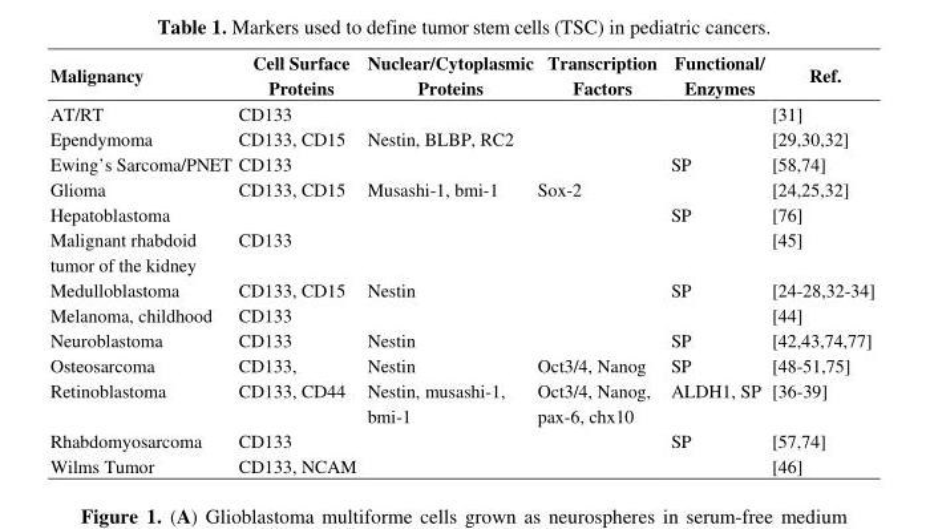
<table><thead><tr><td>Malignancy</td><td>Cell Surface Proteins</td><td>Nuclear/Cytoplasmic Proteins</td><td>Transcription Factors</td><td>Functional/ Enzymes</td><td>Ref.</td></tr></thead><tbody><tr><td>AT/RT</td><td>CD133</td><td></td><td></td><td></td><td>[31]</td></tr><tr><td>Ependymoma</td><td>CD133, CD15</td><td>Nestin, BLBP, RC2</td><td></td><td></td><td>[29,30,32]</td></tr><tr><td>Ewing’s Sarcoma/PNET</td><td>CD133</td><td></td><td></td><td>SP</td><td>[58,74]</td></tr><tr><td>Glioma</td><td>CD133, CD15</td><td>Musashi-1, bmi-1</td><td>Sox-2</td><td></td><td>[24,25,32]</td></tr><tr><td>Hepatoblastoma</td><td></td><td></td><td></td><td>SP</td><td>[76]</td></tr><tr><td>Malignant rhabdoid tumor of the kidney</td><td>CD133</td><td></td><td></td><td></td><td>[45]</td></tr><tr><td>Medulloblastoma</td><td>CD133, CD15</td><td>Nestin</td><td></td><td>SP</td><td>[24-28,32-34]</td></tr><tr><td>Melanoma, childhood</td><td>CD133</td><td></td><td></td><td></td><td>[44]</td></tr><tr><td>Neuroblastoma</td><td>CD133</td><td>Nestin</td><td></td><td>SP</td><td>[42,43,74,77]</td></tr><tr><td>Osteosarcoma</td><td>CD133,</td><td>Nestin</td><td>Oct3/4, Nanog</td><td>SP</td><td>[48-51,75]</td></tr><tr><td>Retinoblastoma</td><td>CD133, CD44</td><td>Nestin, musashi-1, bmi-1</td><td>Oct3/4, Nanog, pax-6, chx10</td><td>ALDH1, SP</td><td>[36-39]</td></tr><tr><td>Rhabdomyosarcoma</td><td>CD133</td><td></td><td></td><td>SP</td><td>[57,74]</td></tr><tr><td>Wilms Tumor</td><td>CD133, NCAM</td><td></td><td></td><td></td><td>[46]</td></tr></tbody></table>